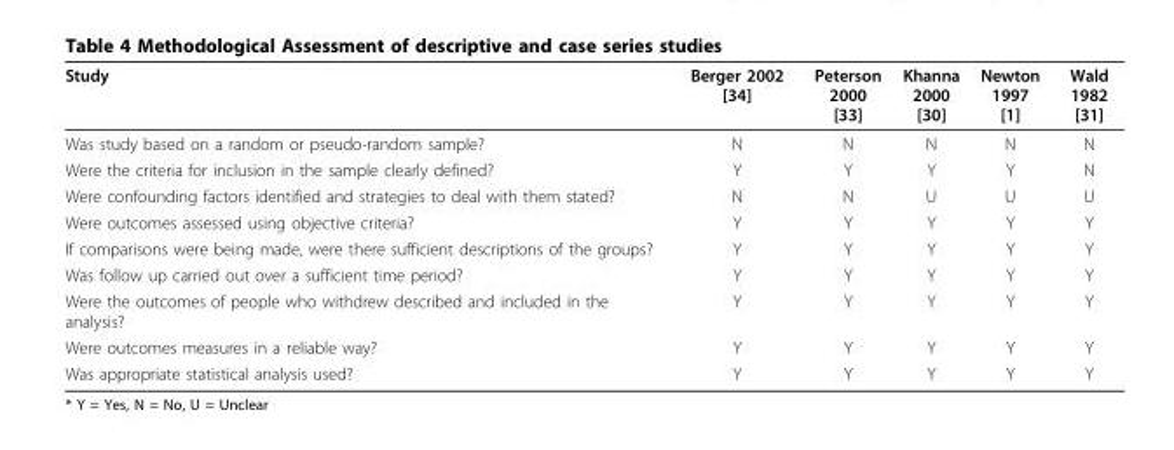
<table><thead><tr><td>Study</td><td>Berger 2002 [34]</td><td>Peterson 2000 [33]</td><td>Khanna 2000 [30]</td><td>Newton 1997 [1]</td><td>Wald 1982 [31]</td></tr></thead><tbody><tr><td>Was study based on a random or pseudo-random sample?</td><td>N</td><td>N</td><td>N</td><td>N</td><td>N</td></tr><tr><td>Were the criteria for inclusion in the sample clearly defined?</td><td>Y</td><td>Y</td><td>Y</td><td>Y</td><td>N</td></tr><tr><td>Were confounding factors identified and strategies to deal with them stated?</td><td>N</td><td>N</td><td>U</td><td>U</td><td>U</td></tr><tr><td>Were outcomes assessed using objective criteria?</td><td>Y</td><td>Y</td><td>Y</td><td>Y</td><td>Y</td></tr><tr><td>If comparisons were being made, were there sufficient descriptions of the groups?</td><td>Y</td><td>Y</td><td>Y</td><td>Y</td><td>Y</td></tr><tr><td>Was follow up carried out over a sufficient time period?</td><td>Y</td><td>Y</td><td>Y</td><td>Y</td><td>Y</td></tr><tr><td>Were the outcomes of people who withdrew described and included in the analysis?</td><td>Y</td><td>Y</td><td>Y</td><td>Y</td><td>Y</td></tr><tr><td>Were outcomes measures in a reliable way?</td><td>Y</td><td>Y</td><td>Y</td><td>Y</td><td>Y</td></tr><tr><td>Was appropriate statistical analysis used?</td><td>Y</td><td>Y</td><td>Y</td><td>Y</td><td>Y</td></tr></tbody></table>